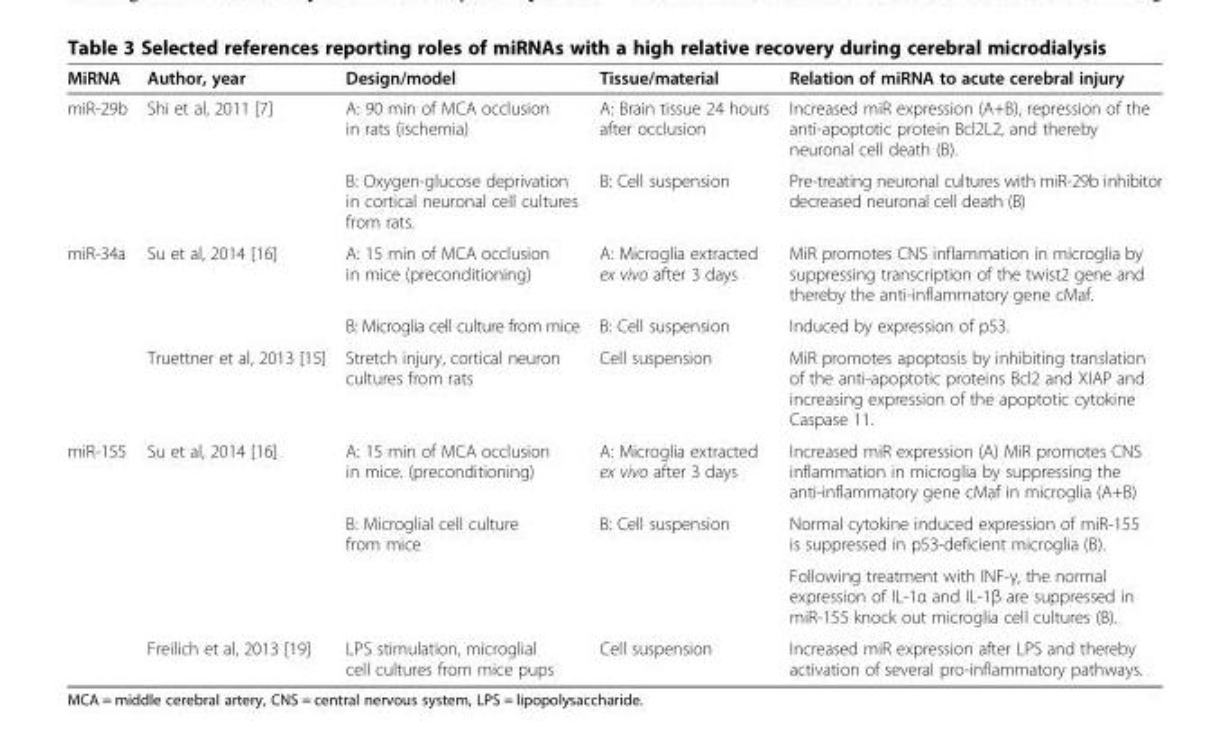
<table><thead><tr><td>MiRNA</td><td>Author, year</td><td>Design/model</td><td>Tissue/material</td><td>Relation of miRNA to acute cerebral injury</td></tr></thead><tbody><tr><td rowspan="2">miR-29b</td><td rowspan="2">Shi et al, 2011 [7]</td><td>A: 90 min of MCA occlusion in rats (ischemia)</td><td>A: Brain tissue 24 hours after occlusion</td><td>Increased miR expression (A+B), repression of the anti-apoptotic protein Bcl2L2, and thereby neuronal cell death (B).</td></tr><tr><td>B: Oxygen-glucose deprivation in cortical neuronal cell cultures from rats.</td><td>B: Cell suspension</td><td>Pre-treating neuronal cultures with miR-29b inhibitor decreased neuronal cell death (B)</td></tr><tr><td rowspan="3">miR-34a</td><td rowspan="2">Su et al, 2014 [16]</td><td>A: 15 min of MCA occlusion in mice (preconditioning)</td><td>A: Microglia extracted ex vivo after 3 days</td><td>MiR promotes CNS inflammation in microglia by suppressing transcription of the twist2 gene and thereby the anti-inflammatory gene cMaf.</td></tr><tr><td>B: Microglia cell culture from mice</td><td>B: Cell suspension</td><td>Induced by expression of p53.</td></tr><tr><td>Truettner et al, 2013 [15]</td><td>Stretch injury, cortical neuron cultures from rats</td><td>Cell suspension</td><td>MiR promotes apoptosis by inhibiting translation of the anti-apoptotic proteins Bcl2 and XIAP and increasing expression of the apoptotic cytokine Caspase 11.</td></tr><tr><td rowspan="4">miR-155</td><td rowspan="3">Su et al, 2014 [16]</td><td>A: 15 min of MCA occlusion in mice. (preconditioning)</td><td>A: Microglia extracted ex vivo after 3 days</td><td>Increased miR expression (A) MiR promotes CNS inflammation in microglia by suppressing the anti-inflammatory gene cMaf in microglia (A+B)</td></tr><tr><td rowspan="2">B: Microglial cell culture from mice</td><td rowspan="2">B: Cell suspension</td><td>Normal cytokine induced expression of miR-155 is suppressed in p53-deficient microglia (B).</td></tr><tr><td>Following treatment with INF-γ, the normal expression of IL-1α and IL-1β are suppressed in miR-155 knock out microglia cell cultures (B).</td></tr><tr><td>Freilich et al, 2013 [19]</td><td>LPS stimulation, microglial cell cultures from mice pups</td><td>Cell suspension</td><td>Increased miR expression after LPS and thereby activation of several pro-inflammatory pathways.</td></tr></tbody></table>